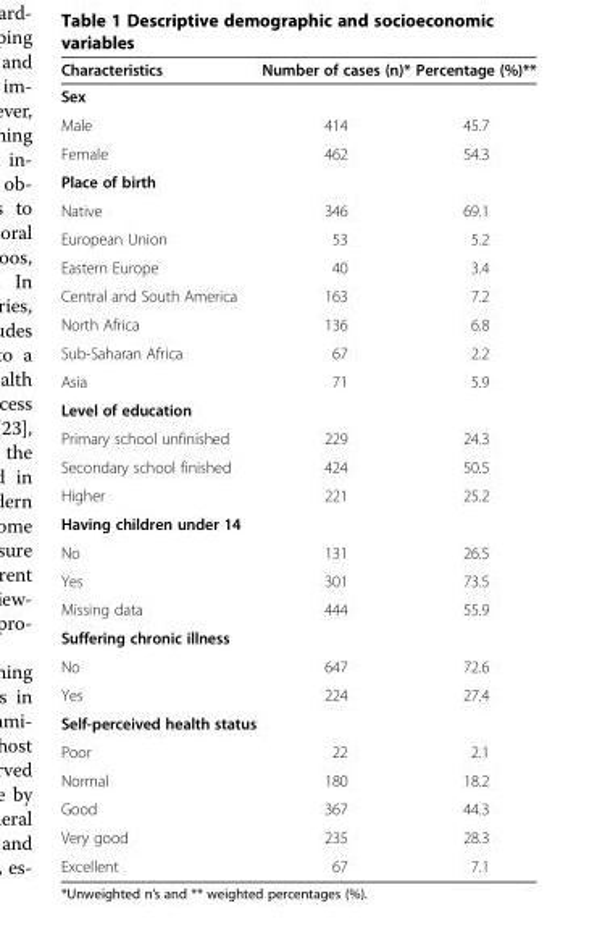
<table><thead><tr><td>Characteristics</td><td>Number of cases (n)*</td><td>Percentage (%)**</td></tr></thead><tbody><tr><td colspan="3">Sex</td></tr><tr><td>Male</td><td>414</td><td>45.7</td></tr><tr><td>Female</td><td>462</td><td>54.3</td></tr><tr><td colspan="3">Place of birth</td></tr><tr><td>Native</td><td>346</td><td>69.1</td></tr><tr><td>European Union</td><td>53</td><td>5.2</td></tr><tr><td>Eastern Europe</td><td>40</td><td>3.4</td></tr><tr><td>Central and South America</td><td>163</td><td>7.2</td></tr><tr><td>North Africa</td><td>136</td><td>6.8</td></tr><tr><td>Sub-Saharan Africa</td><td>67</td><td>2.2</td></tr><tr><td>Asia</td><td>71</td><td>5.9</td></tr><tr><td colspan="3">Level of education</td></tr><tr><td>Primary school unfinished</td><td>229</td><td>24.3</td></tr><tr><td>Secondary school finished</td><td>424</td><td>50.5</td></tr><tr><td>Higher</td><td>221</td><td>25.2</td></tr><tr><td colspan="3">Having children under 14</td></tr><tr><td>No</td><td>131</td><td>26.5</td></tr><tr><td>Yes</td><td>301</td><td>73.5</td></tr><tr><td>Missing data</td><td>444</td><td>55.9</td></tr><tr><td colspan="3">Suffering chronic illness</td></tr><tr><td>No</td><td>647</td><td>72.6</td></tr><tr><td>Yes</td><td>224</td><td>27.4</td></tr><tr><td colspan="3">Self-perceived health status</td></tr><tr><td>Poor</td><td>22</td><td>2.1</td></tr><tr><td>Normal</td><td>180</td><td>18.2</td></tr><tr><td>Good</td><td>367</td><td>44.3</td></tr><tr><td>Very good</td><td>235</td><td>28.3</td></tr><tr><td>Excellent</td><td>67</td><td>7.1</td></tr></tbody></table>